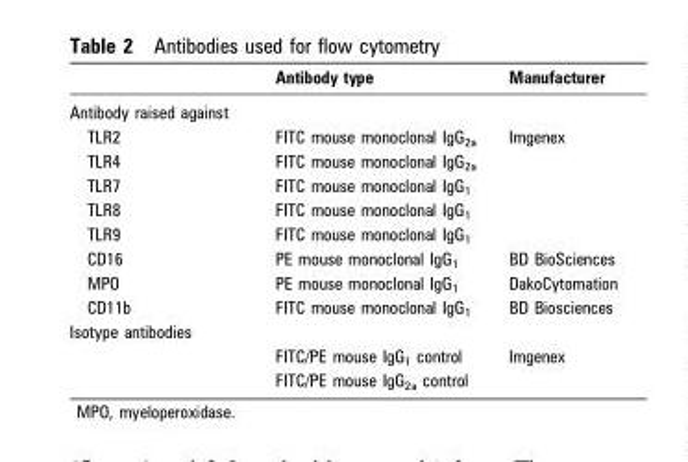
<table><thead><tr><td></td><td>Antibody type</td><td>Manufacturer</td></tr></thead><tbody><tr><td colspan="3">Antibody raised against</td></tr><tr><td>TLR2</td><td>FITC mouse monoclonal IgG<sub>2a</sub></td><td rowspan="5">Imgenex</td></tr><tr><td>TLR4</td><td>FITC mouse monoclonal IgG<sub>2a</sub></td></tr><tr><td>TLR7</td><td>FITC mouse monoclonal IgG<sub>1</sub></td></tr><tr><td>TLR8</td><td>FITC mouse monoclonal IgG<sub>1</sub></td></tr><tr><td>TLR9</td><td>FITC mouse monoclonal IgG<sub>1</sub></td></tr><tr><td>CD16</td><td>PE mouse monoclonal IgG<sub>1</sub></td><td>BD BioSciences</td></tr><tr><td>MPO</td><td>PE mouse monoclonal IgG<sub>1</sub></td><td>DakoCytomation</td></tr><tr><td>CD11b</td><td>FITC mouse monoclonal IgG<sub>1</sub></td><td>BD Biosciences</td></tr><tr><td colspan="3">Isotype antibodies</td></tr><tr><td></td><td>FITC/PE mouse IgG<sub>1</sub> control</td><td rowspan="2">Imgenex</td></tr><tr><td></td><td>FITC/PE mouse IgG<sub>2a</sub> control</td></tr></tbody></table>